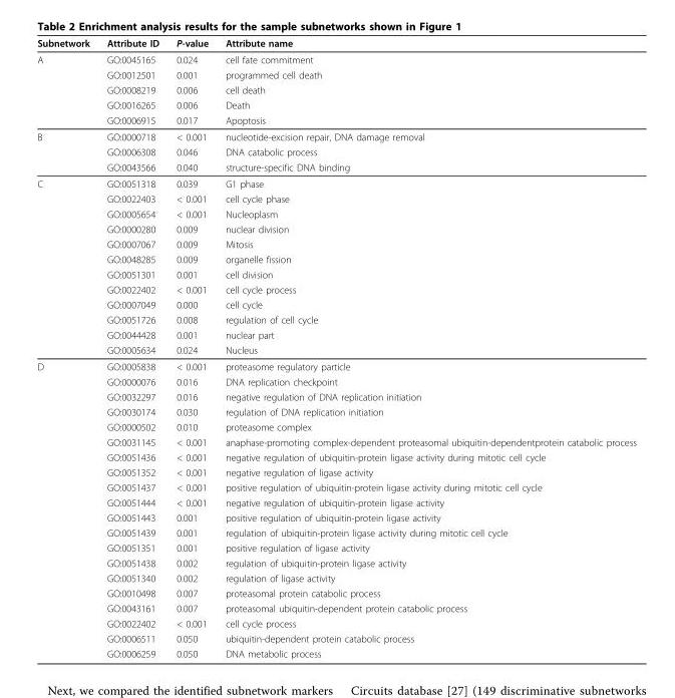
<table><thead><tr><td>Subnetwork</td><td>Attribute ID</td><td>P-value</td><td>Attribute name</td></tr></thead><tbody><tr><td rowspan="5">A</td><td>GO:0045165</td><td>0.024</td><td>cell fate commitment</td></tr><tr><td>GO:0012501</td><td>0.001</td><td>programmed cell death</td></tr><tr><td>GO:0008219</td><td>0.006</td><td>cell death</td></tr><tr><td>GO:0016265</td><td>0.006</td><td>Death</td></tr><tr><td>GO:0006915</td><td>0.017</td><td>Apoptosis</td></tr><tr><td rowspan="3">B</td><td>GO:0000718</td><td>&lt; 0.001</td><td>nucleotide-excision repair, DNA damage removal</td></tr><tr><td>GO:0006308</td><td>0.046</td><td>DNA catabolic process</td></tr><tr><td>GO:0043566</td><td>0.040</td><td>structure-specific DNA binding</td></tr><tr><td rowspan="12">C</td><td>GO:0051318</td><td>0.039</td><td>G1 phase</td></tr><tr><td>GO:0022403</td><td>&lt; 0.001</td><td>cell cycle phase</td></tr><tr><td>GO:0005654</td><td>&lt; 0.001</td><td>Nucleoplasm</td></tr><tr><td>GO:0000280</td><td>0.009</td><td>nuclear division</td></tr><tr><td>GO:0007067</td><td>0.009</td><td>Mitosis</td></tr><tr><td>GO:0048285</td><td>0.009</td><td>organelle fission</td></tr><tr><td>GO:0051301</td><td>0.001</td><td>cell division</td></tr><tr><td>GO:0022402</td><td>&lt; 0.001</td><td>cell cycle process</td></tr><tr><td>GO:0007049</td><td>0.000</td><td>cell cycle</td></tr><tr><td>GO:0051726</td><td>0.008</td><td>regulation of cell cycle</td></tr><tr><td>GO:0044428</td><td>0.001</td><td>nuclear part</td></tr><tr><td>GO:0005634</td><td>0.024</td><td>Nucleus</td></tr><tr><td rowspan="20">D</td><td>GO:0005838</td><td>&lt; 0.001</td><td>proteasome regulatory particle</td></tr><tr><td>GO:0000076</td><td>0.016</td><td>DNA replication checkpoint</td></tr><tr><td>GO:0032297</td><td>0.016</td><td>negative regulation of DNA replication initiation</td></tr><tr><td>GO:0030174</td><td>0.030</td><td>regulation of DNA replication initiation</td></tr><tr><td>GO:0000502</td><td>0.010</td><td>proteasome complex</td></tr><tr><td>GO:0031145</td><td>&lt; 0.001</td><td>anaphase-promoting complex-dependent proteasomal ubiquitin-dependentprotein catabolic process</td></tr><tr><td>GO:0051436</td><td>&lt; 0.001</td><td>negative regulation of ubiquitin-protein ligase activity during mitotic cell cycle</td></tr><tr><td>GO:0051352</td><td>&lt; 0.001</td><td>negative regulation of ligase activity</td></tr><tr><td>GO:0051437</td><td>&lt; 0.001</td><td>positive regulation of ubiquitin-protein ligase activity during mitotic cell cycle</td></tr><tr><td>GO:0051444</td><td>&lt; 0.001</td><td>negative regulation of ubiquitin-protein ligase activity</td></tr><tr><td>GO:0051443</td><td>0.001</td><td>positive regulation of ubiquitin-protein ligase activity</td></tr><tr><td>GO:0051439</td><td>0.001</td><td>regulation of ubiquitin-protein ligase activity during mitotic cell cycle</td></tr><tr><td>GO:0051351</td><td>0.001</td><td>positive regulation of ligase activity</td></tr><tr><td>GO:0051438</td><td>0.002</td><td>regulation of ubiquitin-protein ligase activity</td></tr><tr><td>GO:0051340</td><td>0.002</td><td>regulation of ligase activity</td></tr><tr><td>GO:0010498</td><td>0.007</td><td>proteasomal protein catabolic process</td></tr><tr><td>GO:0043161</td><td>0.007</td><td>proteasomal ubiquitin-dependent protein catabolic process</td></tr><tr><td>GO:0022402</td><td>&lt; 0.001</td><td>cell cycle process</td></tr><tr><td>GO:0006511</td><td>0.050</td><td>ubiquitin-dependent protein catabolic process</td></tr><tr><td>GO:0006259</td><td>0.050</td><td>DNA metabolic process</td></tr></tbody></table>